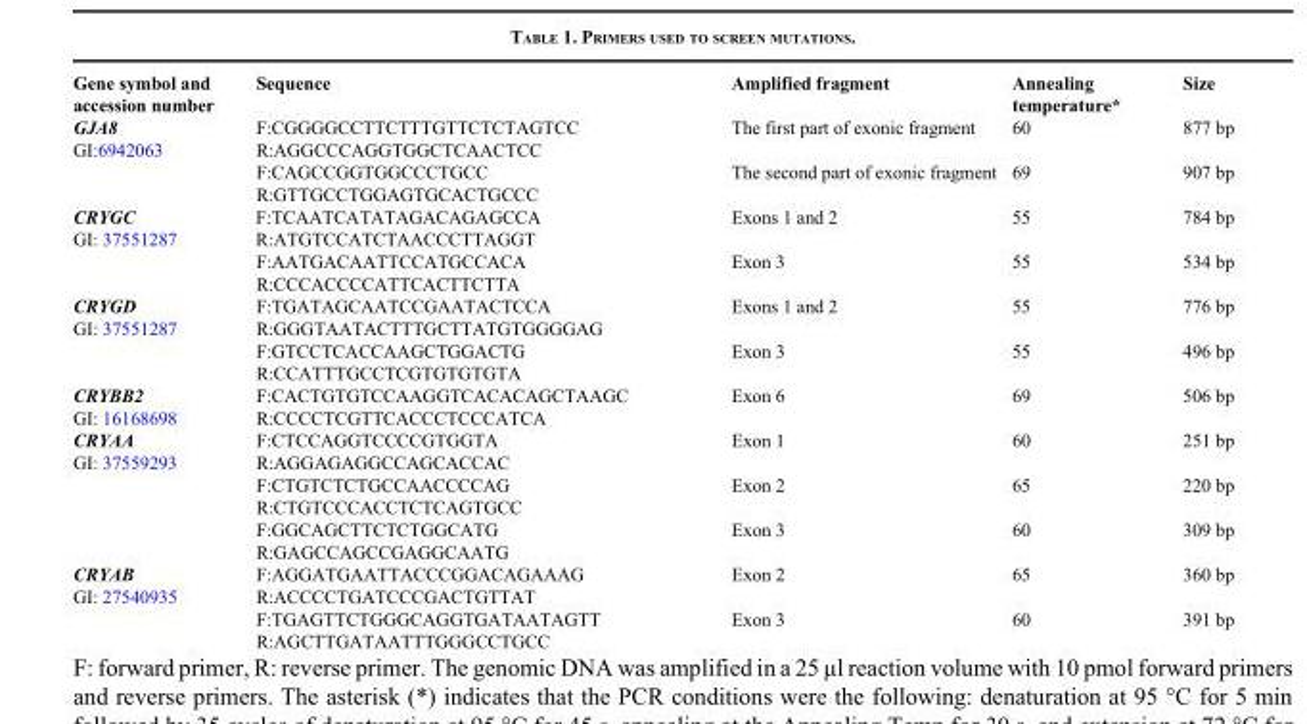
<table><thead><tr><td>Gene symbol and accession number</td><td>Sequence</td><td>Amplified fragment</td><td>Annealing temperature*</td><td>Size</td></tr></thead><tbody><tr><td rowspan="2">GJA8 GI:6942063</td><td>F:CGGGGCCTTCTTTGTTCTCTAGTCC R:AGGCCCAGGTGGCTCAACTCC</td><td>The first part of exonic fragment</td><td>60</td><td>877 bp</td></tr><tr><td>F:CAGCCGGTGGCCCTGCC R:GTTGCCTGGAGTGCACTGCCC</td><td>The second part of exonic fragment</td><td>69</td><td>907 bp</td></tr><tr><td rowspan="2">CRYGC GI: 37551287</td><td>F:TCAATCATATAGACAGAGCCA R:ATGTCCATCTAACCCTTAGGT</td><td>Exons 1 and 2</td><td>55</td><td>784 bp</td></tr><tr><td>F:AATGACAATTCCATGCCACA R:CCCACCCCATTCACTTCTTA</td><td>Exon 3</td><td>55</td><td>534 bp</td></tr><tr><td rowspan="2">CRYGD GI: 37551287</td><td>F:TGATAGCAATCCGAATACTCCA R:GGGTAATACTTTGCTTATGTGGGGAG</td><td>Exons 1 and 2</td><td>55</td><td>776 bp</td></tr><tr><td>F:GTCCTCACCAAGCTGGACTG R:CCATTTGCCTCGTGTGTGTA</td><td>Exon 3</td><td>55</td><td>496 bp</td></tr><tr><td>CRYBB2 GI: 16168698</td><td>F:CACTGTGTCCAAGGTCACACAGCTAAGC R:CCCCTCGTTCACCCTCCCATCA</td><td>Exon 6</td><td>69</td><td>506 bp</td></tr><tr><td rowspan="3">CRYAA GI: 37559293</td><td>F:CTCCAGGTCCCCGTGGTA R:AGGAGAGGCCAGCACCAC</td><td>Exon 1</td><td>60</td><td>251 bp</td></tr><tr><td>F:CTGTCTCTGCCAACCCCAG R:CTGTCCCACCTCTCAGTGCC</td><td>Exon 2</td><td>65</td><td>220 bp</td></tr><tr><td>F:GGCAGCTTCTCTGGCATG R:GAGCCAGCCGAGGCAATG</td><td>Exon 3</td><td>60</td><td>309 bp</td></tr><tr><td rowspan="2">CRYAB GI: 27540935</td><td>F:AGGATGAATTACCCGGACAGAAAG R:ACCCCTGATCCCGACTGTTAT</td><td>Exon 2</td><td>65</td><td>360 bp</td></tr><tr><td>F:TGAGTTCTGGGCAGGTGATAATAGTT R:AGCTTGATAATTTGGGCCTGCC</td><td>Exon 3</td><td>60</td><td>391 bp</td></tr></tbody></table>